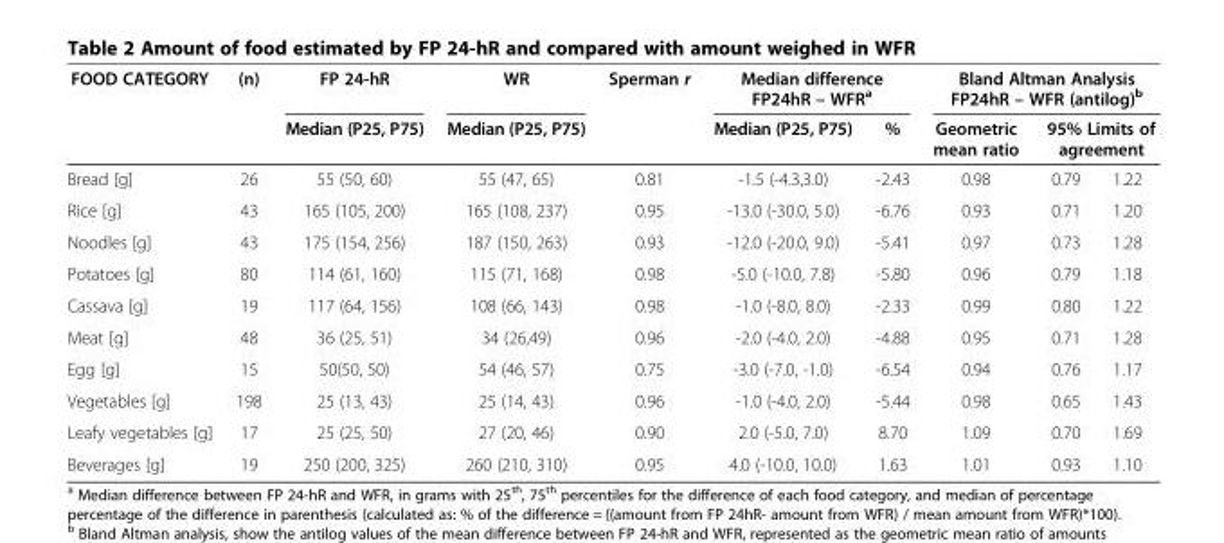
<table><thead><tr><td rowspan="3">FOOD CATEGORY Bread [g]</td><td rowspan="3">(n) 26</td><td rowspan="3">FP 24-hR Median (P25, P75) 55 (50, 60)</td><td rowspan="3">WR Median (P25, P75) 55 (47, 65)</td><td rowspan="3">Sperman r 0.81</td><td colspan="2">Median difference FP24hR – WFR<sup>a</sup></td><td colspan="3">Bland Altman Analysis FP24hR – WFR (antilog)<sup>b</sup></td></tr><tr><td rowspan="2">Median (P25, P75) -1.5 (-4.3,3.0)</td><td rowspan="2">% -2.43</td><td rowspan="2">Geometric mean ratio 0.98</td><td colspan="2">95% Limits of agreement</td></tr><tr><td>0.79</td><td>1.22</td></tr></thead><tbody><tr><td>Rice [g]</td><td>43</td><td>165 (105, 200)</td><td>165 (108, 237)</td><td>0.95</td><td>-13.0 (-30.0, 5.0)</td><td>-6.76</td><td>0.93</td><td>0.71</td><td>1.20</td></tr><tr><td>Noodles [g]</td><td>43</td><td>175 (154, 256)</td><td>187 (150, 263)</td><td>0.93</td><td>-12.0 (-20.0, 9.0)</td><td>-5.41</td><td>0.97</td><td>0.73</td><td>1.28</td></tr><tr><td>Potatoes [g]</td><td>80</td><td>114 (61, 160)</td><td>115 (71, 168)</td><td>0.98</td><td>-5.0 (-10.0, 7.8)</td><td>-5.80</td><td>0.96</td><td>0.79</td><td>1.18</td></tr><tr><td>Cassava [g]</td><td>19</td><td>117 (64, 156)</td><td>108 (66, 143)</td><td>0.98</td><td>-1.0 (-8.0, 8.0)</td><td>-2.33</td><td>0.99</td><td>0.80</td><td>1.22</td></tr><tr><td>Meat [g]</td><td>48</td><td>36 (25, 51)</td><td>34 (26,49)</td><td>0.96</td><td>-2.0 (-4.0, 2.0)</td><td>-4.88</td><td>0.95</td><td>0.71</td><td>1.28</td></tr><tr><td>Egg [g]</td><td>15</td><td>50(50, 50)</td><td>54 (46, 57)</td><td>0.75</td><td>-3.0 (-7.0, -1.0)</td><td>-6.54</td><td>0.94</td><td>0.76</td><td>1.17</td></tr><tr><td>Vegetables [g]</td><td>198</td><td>25 (13, 43)</td><td>25 (14, 43)</td><td>0.96</td><td>-1.0 (-4.0, 2.0)</td><td>-5.44</td><td>0.98</td><td>0.65</td><td>1.43</td></tr><tr><td>Leafy vegetables [g]</td><td>17</td><td>25 (25, 50)</td><td>27 (20, 46)</td><td>0.90</td><td>2.0 (-5.0, 7.0)</td><td>8.70</td><td>1.09</td><td>0.70</td><td>1.69</td></tr><tr><td>Beverages [g]</td><td>19</td><td>250 (200, 325)</td><td>260 (210, 310)</td><td>0.95</td><td>4.0 (-10.0, 10.0)</td><td>1.63</td><td>1.01</td><td>0.93</td><td>1.10</td></tr></tbody></table>